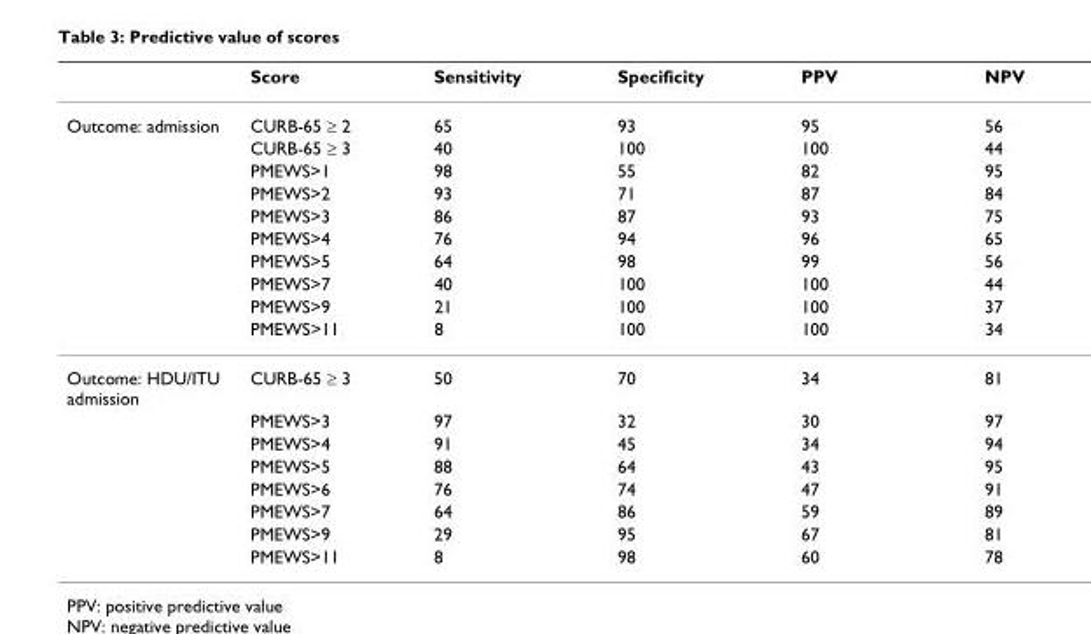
<table><thead><tr><td></td><td>Score</td><td>Sensitivity</td><td>Specificity</td><td>PPV</td><td>NPV</td></tr></thead><tbody><tr><td rowspan="10">Outcome: admission</td><td>CURB-65 ≥ 2</td><td>65</td><td>93</td><td>95</td><td>56</td></tr><tr><td>CURB-65 ≥ 3</td><td>40</td><td>100</td><td>100</td><td>44</td></tr><tr><td>PMEWS&gt;1</td><td>98</td><td>55</td><td>82</td><td>95</td></tr><tr><td>PMEWS&gt;2</td><td>93</td><td>71</td><td>87</td><td>84</td></tr><tr><td>PMEWS&gt;3</td><td>86</td><td>87</td><td>93</td><td>75</td></tr><tr><td>PMEWS&gt;4</td><td>76</td><td>94</td><td>96</td><td>65</td></tr><tr><td>PMEWS&gt;5</td><td>64</td><td>98</td><td>99</td><td>56</td></tr><tr><td>PMEWS&gt;7</td><td>40</td><td>100</td><td>100</td><td>44</td></tr><tr><td>PMEWS&gt;9</td><td>21</td><td>100</td><td>100</td><td>37</td></tr><tr><td>PMEWS&gt;11</td><td>8</td><td>100</td><td>100</td><td>34</td></tr><tr><td rowspan="8">Outcome: HDU/ITU admission</td><td>CURB-65 ≥ 3</td><td>50</td><td>70</td><td>34</td><td>81</td></tr><tr><td>PMEWS&gt;3</td><td>97</td><td>32</td><td>30</td><td>97</td></tr><tr><td>PMEWS&gt;4</td><td>91</td><td>45</td><td>34</td><td>94</td></tr><tr><td>PMEWS&gt;5</td><td>88</td><td>64</td><td>43</td><td>95</td></tr><tr><td>PMEWS&gt;6</td><td>76</td><td>74</td><td>47</td><td>91</td></tr><tr><td>PMEWS&gt;7</td><td>64</td><td>86</td><td>59</td><td>89</td></tr><tr><td>PMEWS&gt;9</td><td>29</td><td>95</td><td>67</td><td>81</td></tr><tr><td>PMEWS&gt;11</td><td>8</td><td>98</td><td>60</td><td>78</td></tr></tbody></table>